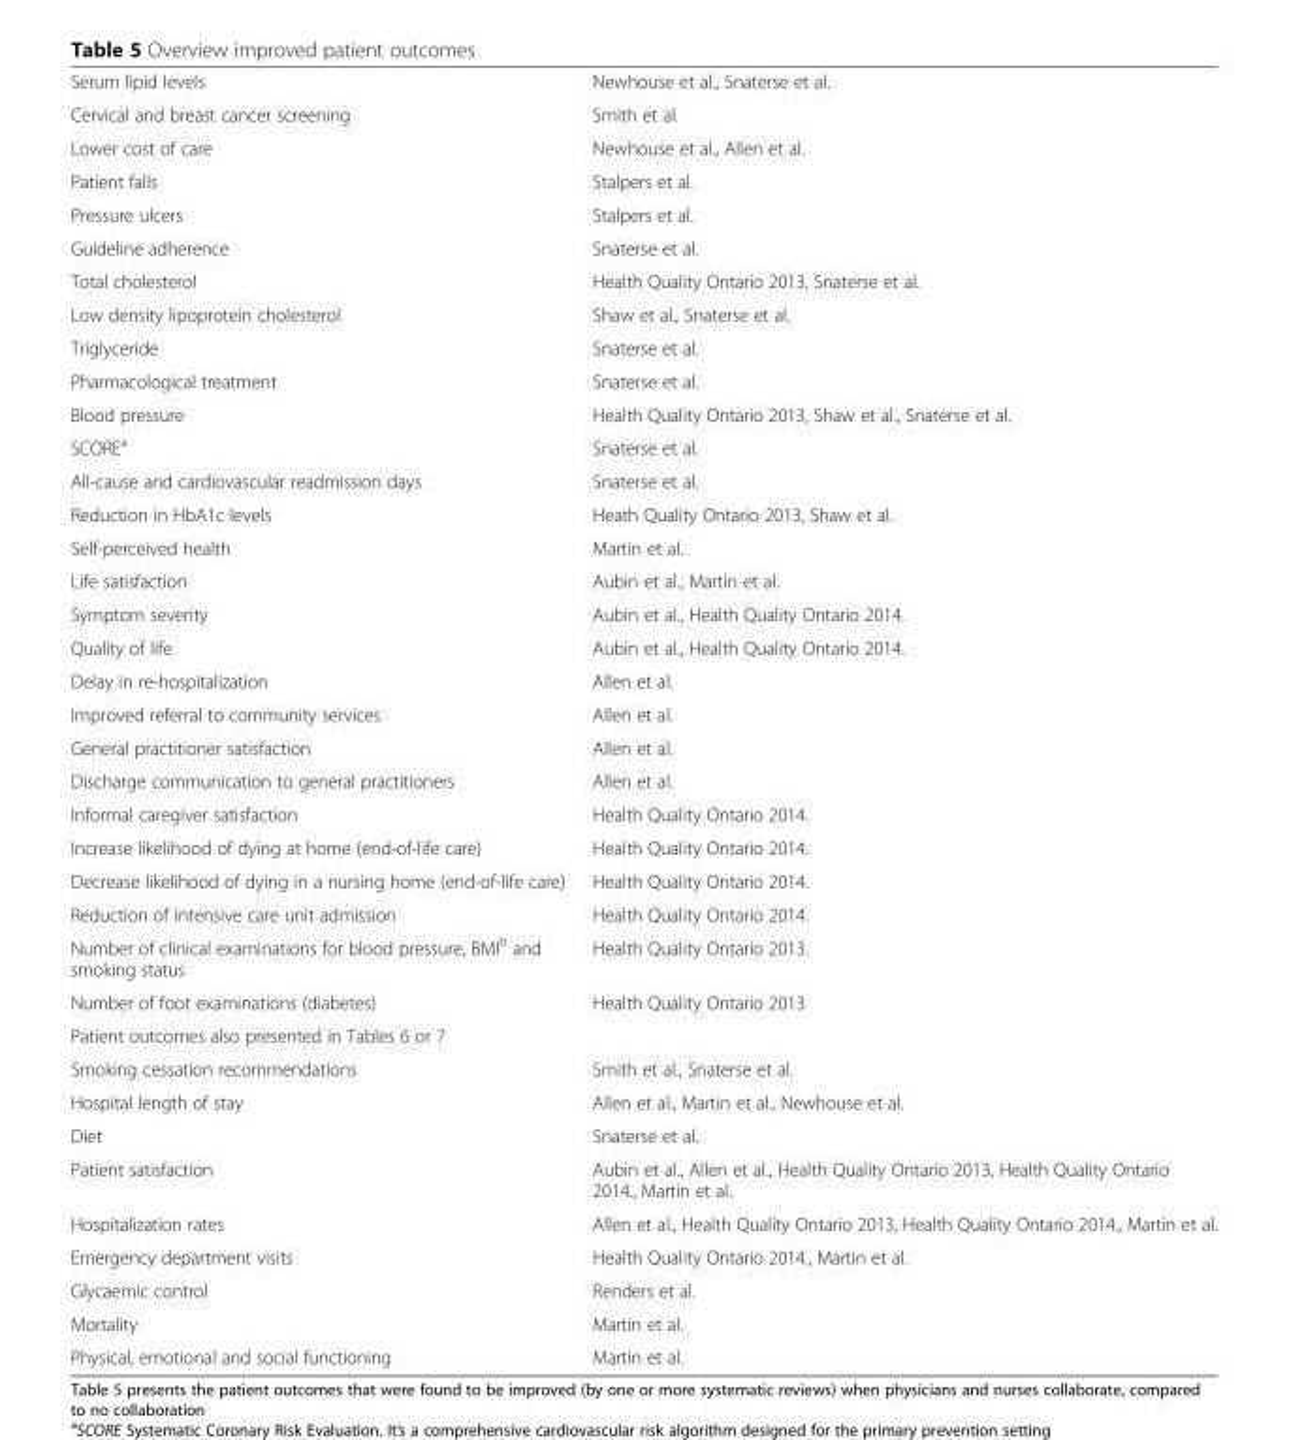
<table><tbody><tr><td>Serum lipid levels</td><td>Newhouse et al., Snaterse et al.</td></tr><tr><td>Cervical and breast cancer screening</td><td>Smith et al.</td></tr><tr><td>Lower cost of care</td><td>Newhouse et al., Allen et al.</td></tr><tr><td>Patient falls</td><td>Stalpers et al.</td></tr><tr><td>Pressure ulcers</td><td>Stalpers et al.</td></tr><tr><td>Guideline adherence</td><td>Snaterse et al.</td></tr><tr><td>Total cholesterol</td><td>Health Quality Ontario 2013, Snaterse et al.</td></tr><tr><td>Low density lipoprotein cholesterol</td><td>Shaw et al., Snaterse et al.</td></tr><tr><td>Triglyceride</td><td>Snaterse et al.</td></tr><tr><td>Pharmacological treatment</td><td>Snaterse et al.</td></tr><tr><td>Blood pressure</td><td>Health Quality Ontario 2013, Shaw et al., Snaterse et al.</td></tr><tr><td>SCORE<sup>a</sup></td><td>Snaterse et al.</td></tr><tr><td>All-cause and cardiovascular readmission days</td><td>Snaterse et al.</td></tr><tr><td>Reduction in HbA1c levels</td><td>Heath Quality Ontario 2013, Shaw et al.</td></tr><tr><td>Self-perceived health</td><td>Martin et al.</td></tr><tr><td>Life satisfaction</td><td>Aubin et al., Martin et al.</td></tr><tr><td>Symptom severity</td><td>Aubin et al., Health Quality Ontario 2014.</td></tr><tr><td>Quality of life</td><td>Aubin et al., Health Quality Ontario 2014.</td></tr><tr><td>Delay in re-hospitalization</td><td>Allen et al.</td></tr><tr><td>Improved referral to community services</td><td>Allen et al.</td></tr><tr><td>General practitioner satisfaction</td><td>Allen et al.</td></tr><tr><td>Discharge communication to general practitioners</td><td>Allen et al.</td></tr><tr><td>Informal caregiver satisfaction</td><td>Health Quality Ontario 2014.</td></tr><tr><td>Increase likelihood of dying at home (end-of-life care)</td><td>Health Quality Ontario 2014.</td></tr><tr><td>Decrease likelihood of dying in a nursing home (end-of-life care)</td><td>Health Quality Ontario 2014.</td></tr><tr><td>Reduction of intensive care unit admission</td><td>Health Quality Ontario 2014.</td></tr><tr><td>Number of clinical examinations for blood pressure, BMI<sup>b</sup> and smoking status</td><td>Health Quality Ontario 2013.</td></tr><tr><td>Number of foot examinations (diabetes)</td><td>Health Quality Ontario 2013</td></tr><tr><td colspan="2">Patient outcomes also presented in Tables 6 or 7</td></tr><tr><td>Smoking cessation recommendations</td><td>Smith et al., Snaterse et al.</td></tr><tr><td>Hospital length of stay</td><td>Allen et al., Martin et al., Newhouse et al.</td></tr><tr><td>Diet</td><td>Snaterse et al.</td></tr><tr><td>Patient satisfaction</td><td>Aubin et al., Allen et al., Health Quality Ontario 2013, Health Quality Ontario 2014., Martin et al.</td></tr><tr><td>Hospitalization rates</td><td>Allen et al., Health Quality Ontario 2013, Health Quality Ontario 2014., Martin et al.</td></tr><tr><td>Emergency department visits</td><td>Health Quality Ontario 2014., Martin et al.</td></tr><tr><td>Glycaemic control</td><td>Renders et al.</td></tr><tr><td>Mortality</td><td>Martin et al.</td></tr><tr><td>Physical, emotional and social functioning</td><td>Martin et al.</td></tr></tbody></table>